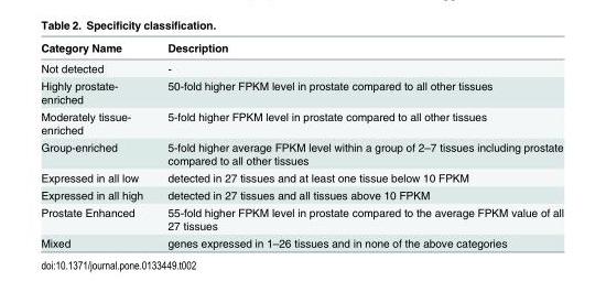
<table><thead><tr><td>Category Name</td><td>Description</td></tr></thead><tbody><tr><td>Not detected</td><td>-</td></tr><tr><td>Highly prostate- enriched</td><td>50-fold higher FPKM level in prostate compared to all other tissues</td></tr><tr><td>Moderately tissue- enriched</td><td>5-fold higher FPKM level in prostate compared to all other tissues</td></tr><tr><td>Group-enriched</td><td>5-fold higher average FPKM level within a group of 2–7 tissues including prostate compared to all other tissues</td></tr><tr><td>Expressed in all low</td><td>detected in 27 tissues and at least one tissue below 10 FPKM</td></tr><tr><td>Expressed in all high</td><td>detected in 27 tissues and all tissues above 10 FPKM</td></tr><tr><td>Prostate Enhanced</td><td>55-fold higher FPKM level in prostate compared to the average FPKM value of all 27 tissues</td></tr><tr><td>Mixed</td><td>genes expressed in 1–26 tissues and in none of the above categories</td></tr></tbody></table>